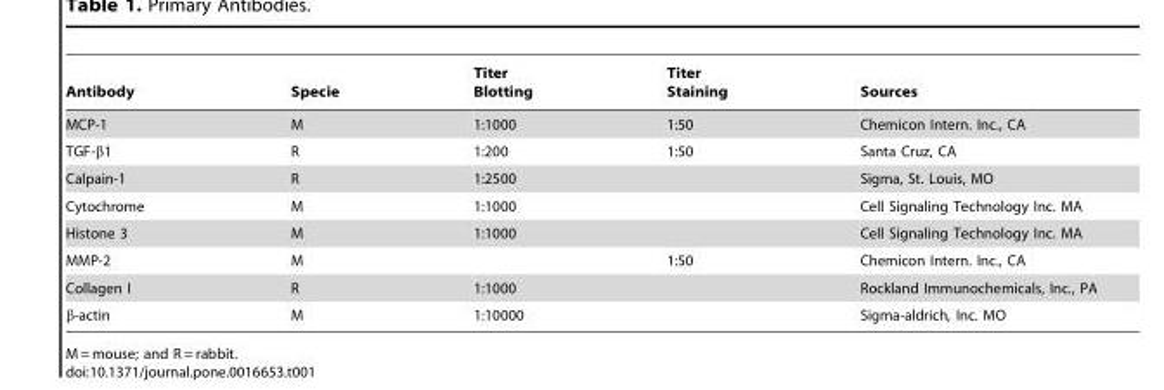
<table><thead><tr><td>Antibody</td><td>Specie</td><td>Titer Blotting</td><td>Titer Staining</td><td>Sources</td></tr></thead><tbody><tr><td>MCP-1</td><td>M</td><td>1:1000</td><td>1:50</td><td>Chemicon Intern. Inc., CA</td></tr><tr><td>TGF-β1</td><td>R</td><td>1:200</td><td>1:50</td><td>Santa Cruz, CA</td></tr><tr><td>Calpain-1</td><td>R</td><td>1:2500</td><td></td><td>Sigma, St. Louis, MO</td></tr><tr><td>Cytochrome</td><td>M</td><td>1:1000</td><td></td><td>Cell Signaling Technology Inc. MA</td></tr><tr><td>Histone 3</td><td>M</td><td>1:1000</td><td></td><td>Cell Signaling Technology Inc. MA</td></tr><tr><td>MMP-2</td><td>M</td><td></td><td>1:50</td><td>Chemicon Intern. Inc., CA</td></tr><tr><td>Collagen I</td><td>R</td><td>1:1000</td><td></td><td>Rockland Immunochemicals, Inc., PA</td></tr><tr><td>β-actin</td><td>M</td><td>1:10000</td><td></td><td>Sigma-aldrich, Inc. MO</td></tr></tbody></table>